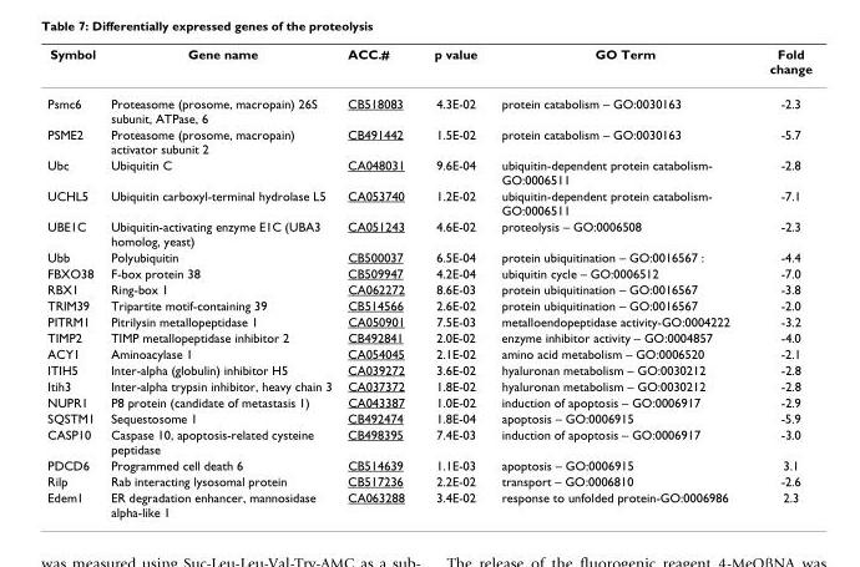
<table><thead><tr><td>Symbol</td><td>Gene name</td><td>ACC.#</td><td>p value</td><td>GO Term</td><td>Fold change</td></tr></thead><tbody><tr><td>Psmc6</td><td>Proteasome (prosome, macropain) 26S subunit, ATPase, 6</td><td>CB518083</td><td>4.3E-02</td><td>protein catabolism – GO:0030163</td><td>-2.3</td></tr><tr><td>PSME2</td><td>Proteasome (prosome, macropain) activator subunit 2</td><td>CB491442</td><td>1.5E-02</td><td>protein catabolism – GO:0030163</td><td>-5.7</td></tr><tr><td>Ubc</td><td>Ubiquitin C</td><td>CA048031</td><td>9.6E-04</td><td>ubiquitin-dependent protein catabolism- GO:0006511</td><td>-2.8</td></tr><tr><td>UCHL5</td><td>Ubiquitin carboxyl-terminal hydrolase L5</td><td>CA053740</td><td>1.2E-02</td><td>ubiquitin-dependent protein catabolism- GO:0006511</td><td>-7.1</td></tr><tr><td>UBE1C</td><td>Ubiquitin-activating enzyme E1C (UBA3 homolog, yeast)</td><td>CA051243</td><td>4.6E-02</td><td>proteolysis – GO:0006508</td><td>-2.3</td></tr><tr><td>Ubb</td><td>Polyubiquitin</td><td>CB500037</td><td>6.5E-04</td><td>protein ubiquitination – GO:0016567 :</td><td>-4.4</td></tr><tr><td>FBXO38</td><td>F-box protein 38</td><td>CB509947</td><td>4.2E-04</td><td>ubiquitin cycle – GO:0006512</td><td>-7.0</td></tr><tr><td>RBX1</td><td>Ring-box 1</td><td>CA062272</td><td>8.6E-03</td><td>protein ubiquitination – GO:0016567</td><td>-3.8</td></tr><tr><td>TRIM39</td><td>Tripartite motif-containing 39</td><td>CB514566</td><td>2.6E-02</td><td>protein ubiquitination – GO:0016567</td><td>-2.0</td></tr><tr><td>PITRM1</td><td>Pitrilysin metallopeptidase 1</td><td>CA050901</td><td>7.5E-03</td><td>metalloendopeptidase activity-GO:0004222</td><td>-3.2</td></tr><tr><td>TIMP2</td><td>TIMP metallopeptidase inhibitor 2</td><td>CB492841</td><td>2.0E-02</td><td>enzyme inhibitor activity – GO:0004857</td><td>-4.0</td></tr><tr><td>ACY1</td><td>Aminoacylase 1</td><td>CA054045</td><td>2.1E-02</td><td>amino acid metabolism – GO:0006520</td><td>-2.1</td></tr><tr><td>ITIH5</td><td>Inter-alpha (globulin) inhibitor H5</td><td>CA039272</td><td>3.6E-02</td><td>hyaluronan metabolism – GO:0030212</td><td>-2.8</td></tr><tr><td>Itih3</td><td>Inter-alpha trypsin inhibitor, heavy chain 3</td><td>CA037372</td><td>1.8E-02</td><td>hyaluronan metabolism – GO:0030212</td><td>-2.8</td></tr><tr><td>NUPR1</td><td>P8 protein (candidate of metastasis 1)</td><td>CA043387</td><td>1.0E-02</td><td>induction of apoptosis – GO:0006917</td><td>-2.9</td></tr><tr><td>SQSTM1</td><td>Sequestosome 1</td><td>CB492474</td><td>1.8E-04</td><td>apoptosis – GO:0006915</td><td>-5.9</td></tr><tr><td>CASP10</td><td>Caspase 10, apoptosis-related cysteine peptidase</td><td>CB498395</td><td>7.4E-03</td><td>induction of apoptosis – GO:0006917</td><td>-3.0</td></tr><tr><td>PDCD6</td><td>Programmed cell death 6</td><td>CB514639</td><td>1.1E-03</td><td>apoptosis – GO:0006915</td><td>3.1</td></tr><tr><td>Rilp</td><td>Rab interacting lysosomal protein</td><td>CB517236</td><td>2.2E-02</td><td>transport – GO:0006810</td><td>-2.6</td></tr><tr><td>Edem1</td><td>ER degradation enhancer, mannosidase alpha-like 1</td><td>CA063288</td><td>3.4E-02</td><td>response to unfolded protein-GO:0006986</td><td>2.3</td></tr></tbody></table>